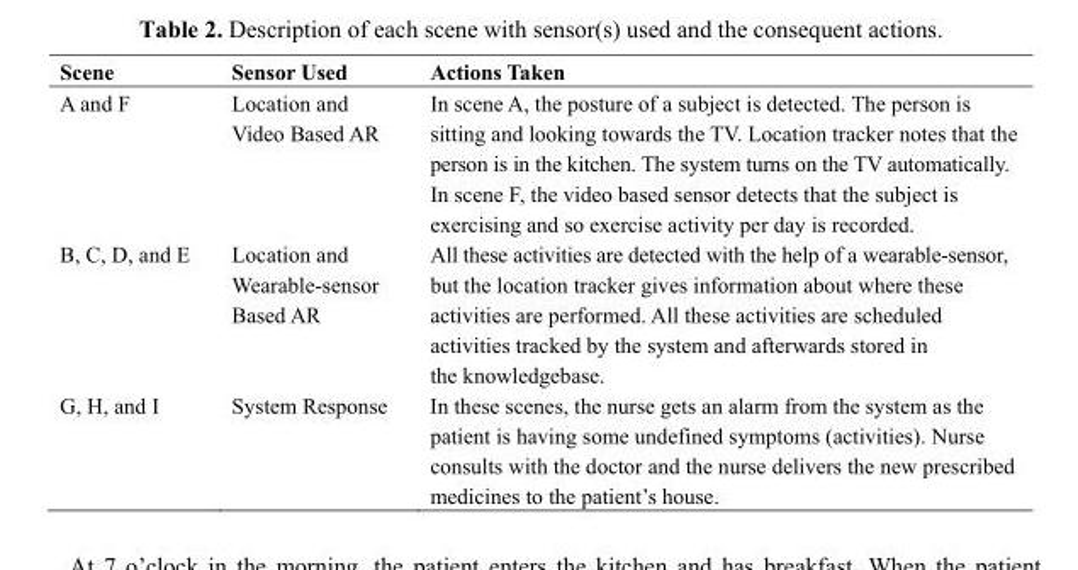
<table><thead><tr><td>Scene</td><td>Sensor Used</td><td>Actions Taken</td></tr></thead><tbody><tr><td>A and F</td><td>Location and Video Based AR</td><td>In scene A, the posture of a subject is detected. The person is sitting and looking towards the TV. Location tracker notes that the person is in the kitchen. The system turns on the TV automatically. In scene F, the video based sensor detects that the subject is exercising and so exercise activity per day is recorded.</td></tr><tr><td>B, C, D, and E</td><td>Location and Wearable-sensor Based AR</td><td>All these activities are detected with the help of a wearable-sensor, but the location tracker gives information about where these activities are performed. All these activities are scheduled activities tracked by the system and afterwards stored in the knowledgebase.</td></tr><tr><td>G, H, and I</td><td>System Response</td><td>In these scenes, the nurse gets an alarm from the system as the patient is having some undefined symptoms (activities). Nurse consults with the doctor and the nurse delivers the new prescribed medicines to the patient’s house.</td></tr></tbody></table>